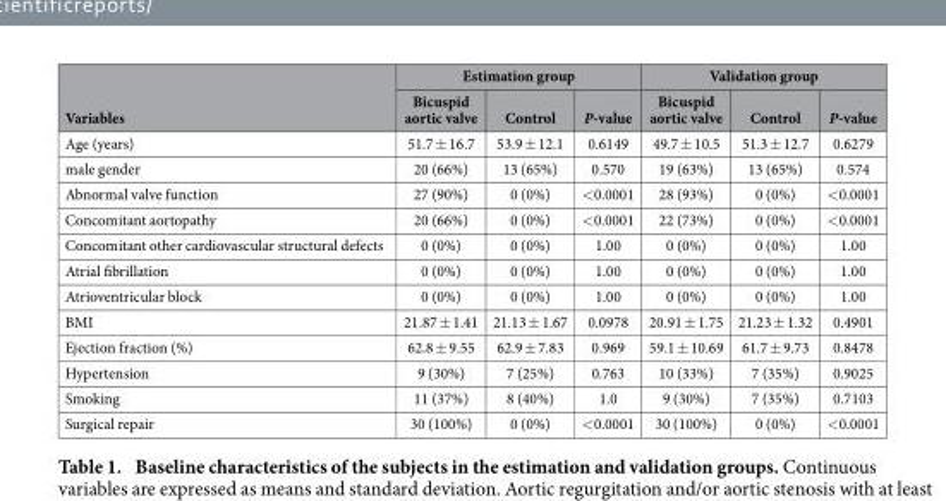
<table><thead><tr><td rowspan="2">Variables</td><td colspan="3">Estimation group</td><td colspan="3">Validation group</td></tr><tr><td>Bicuspid aortic valve</td><td>Control</td><td>P-value</td><td>Bicuspid aortic valve</td><td>Control</td><td>P-value</td></tr></thead><tbody><tr><td>Age (years)</td><td>51.7 ± 16.7</td><td>53.9 ± 12.1</td><td>0.6149</td><td>49.7 ± 10.5</td><td>51.3 ± 12.7</td><td>0.6279</td></tr><tr><td>male gender</td><td>20 (66%)</td><td>13 (65%)</td><td>0.570</td><td>19 (63%)</td><td>13 (65%)</td><td>0.574</td></tr><tr><td>Abnormal valve function</td><td>27 (90%)</td><td>0 (0%)</td><td>&lt; 0.0001</td><td>28 (93%)</td><td>0 (0%)</td><td>&lt; 0.0001</td></tr><tr><td>Concomitant aortopathy</td><td>20 (66%)</td><td>0 (0%)</td><td>&lt; 0.0001</td><td>22 (73%)</td><td>0 (0%)</td><td>&lt; 0.0001</td></tr><tr><td>Concomitant other cardiovascular structural defects</td><td>0 (0%)</td><td>0 (0%)</td><td>1.00</td><td>0 (0%)</td><td>0 (0%)</td><td>1.00</td></tr><tr><td>Atrial fibrillation</td><td>0 (0%)</td><td>0 (0%)</td><td>1.00</td><td>0 (0%)</td><td>0 (0%)</td><td>1.00</td></tr><tr><td>Atrioventricular block</td><td>0 (0%)</td><td>0 (0%)</td><td>1.00</td><td>0 (0%)</td><td>0 (0%)</td><td>1.00</td></tr><tr><td>BMI</td><td>21.87 ± 1.41</td><td>21.13 ± 1.67</td><td>0.0978</td><td>20.91 ± 1.75</td><td>21.23 ± 1.32</td><td>0.4901</td></tr><tr><td>Ejection fraction (%)</td><td>62.8 ± 9.55</td><td>62.9 ± 7.83</td><td>0.969</td><td>59.1 ± 10.69</td><td>61.7 ± 9.73</td><td>0.8478</td></tr><tr><td>Hypertension</td><td>9 (30%)</td><td>7 (25%)</td><td>0.763</td><td>10 (33%)</td><td>7 (35%)</td><td>0.9025</td></tr><tr><td>Smoking</td><td>11 (37%)</td><td>8 (40%)</td><td>1.0</td><td>9 (30%)</td><td>7 (35%)</td><td>0.7103</td></tr><tr><td>Surgical repair</td><td>30 (100%)</td><td>0 (0%)</td><td>&lt; 0.0001</td><td>30 (100%)</td><td>0 (0%)</td><td>&lt; 0.0001</td></tr></tbody></table>